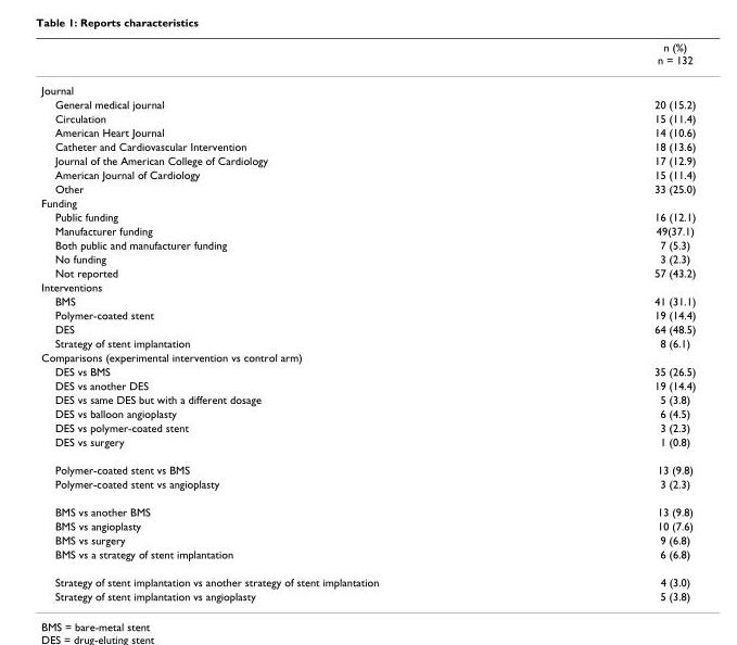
<table><thead><tr><td></td><td>n (%) n = 132</td></tr></thead><tbody><tr><td colspan="2">Journal</td></tr><tr><td>General medical journal</td><td>20 (15.2)</td></tr><tr><td>Circulation</td><td>15 (11.4)</td></tr><tr><td>American Heart Journal</td><td>14 (10.6)</td></tr><tr><td>Catheter and Cardiovascular Intervention</td><td>18 (13.6)</td></tr><tr><td>Journal of the American College of Cardiology</td><td>17 (12.9)</td></tr><tr><td>American Journal of Cardiology</td><td>15 (11.4)</td></tr><tr><td>Other</td><td>33 (25.0)</td></tr><tr><td colspan="2">Funding</td></tr><tr><td>Public funding</td><td>16 (12.1)</td></tr><tr><td>Manufacturer funding</td><td>49(37.1)</td></tr><tr><td>Both public and manufacturer funding</td><td>7 (5.3)</td></tr><tr><td>No funding</td><td>3 (2.3)</td></tr><tr><td>Not reported</td><td>57 (43.2)</td></tr><tr><td colspan="2">Interventions</td></tr><tr><td>BMS</td><td>41 (31.1)</td></tr><tr><td>Polymer-coated stent</td><td>19 (14.4)</td></tr><tr><td>DES</td><td>64 (48.5)</td></tr><tr><td>Strategy of stent implantation</td><td>8 (6.1)</td></tr><tr><td colspan="2">Comparisons (experimental intervention vs control arm)</td></tr><tr><td>DES vs BMS</td><td>35 (26.5)</td></tr><tr><td>DES vs another DES</td><td>19 (14.4)</td></tr><tr><td>DES vs same DES but with a different dosage</td><td>5 (3.8)</td></tr><tr><td>DES vs balloon angioplasty</td><td>6 (4.5)</td></tr><tr><td>DES vs polymer-coated stent</td><td>3 (2.3)</td></tr><tr><td>DES vs surgery</td><td>1 (0.8)</td></tr><tr><td>Polymer-coated stent vs BMS</td><td>13 (9.8)</td></tr><tr><td>Polymer-coated stent vs angioplasty</td><td>3 (2.3)</td></tr><tr><td>BMS vs another BMS</td><td>13 (9.8)</td></tr><tr><td>BMS vs angioplasty</td><td>10 (7.6)</td></tr><tr><td>BMS vs surgery</td><td>9 (6.8)</td></tr><tr><td>BMS vs a strategy of stent implantation</td><td>6 (6.8)</td></tr><tr><td>Strategy of stent implantation vs another strategy of stent implantation</td><td>4 (3.0)</td></tr><tr><td>Strategy of stent implantation vs angioplasty</td><td>5 (3.8)</td></tr></tbody></table>